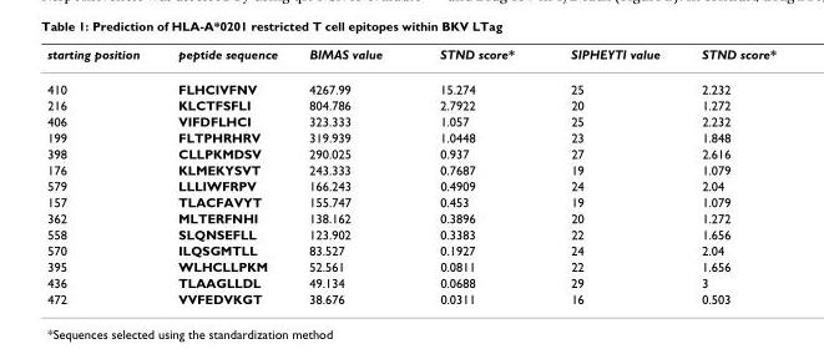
<table><thead><tr><td>starting position</td><td>peptide sequence</td><td>BIMAS value</td><td>STND score*</td><td>SIPHEYTI value</td><td>STND score*</td></tr></thead><tbody><tr><td>410</td><td>FLHCIVFNV</td><td>4267.99</td><td>15.274</td><td>25</td><td>2.232</td></tr><tr><td>216</td><td>KLCTFSFLI</td><td>804.786</td><td>2.7922</td><td>20</td><td>1.272</td></tr><tr><td>406</td><td>VIFDFLHCI</td><td>323.333</td><td>1.057</td><td>25</td><td>2.232</td></tr><tr><td>199</td><td>FLTPHRHRV</td><td>319.939</td><td>1.0448</td><td>23</td><td>1.848</td></tr><tr><td>398</td><td>CLLPKMDSV</td><td>290.025</td><td>0.937</td><td>27</td><td>2.616</td></tr><tr><td>176</td><td>KLMEKYSVT</td><td>243.333</td><td>0.7687</td><td>19</td><td>1.079</td></tr><tr><td>579</td><td>LLLIWFRPV</td><td>166.243</td><td>0.4909</td><td>24</td><td>2.04</td></tr><tr><td>157</td><td>TLACFAVYT</td><td>155.747</td><td>0.453</td><td>19</td><td>1.079</td></tr><tr><td>362</td><td>MLTERFNHI</td><td>138.162</td><td>0.3896</td><td>20</td><td>1.272</td></tr><tr><td>558</td><td>SLQNSEFLL</td><td>123.902</td><td>0.3383</td><td>22</td><td>1.656</td></tr><tr><td>570</td><td>ILQSGMTLL</td><td>83.527</td><td>0.1927</td><td>24</td><td>2.04</td></tr><tr><td>395</td><td>WLHCLLPKM</td><td>52.561</td><td>0.0811</td><td>22</td><td>1.656</td></tr><tr><td>436</td><td>TLAAGLLDL</td><td>49.134</td><td>0.0688</td><td>29</td><td>3</td></tr><tr><td>472</td><td>VVFEDVKGT</td><td>38.676</td><td>0.0311</td><td>16</td><td>0.503</td></tr></tbody></table>